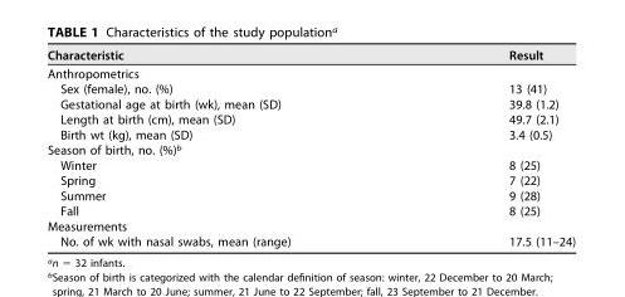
<table><thead><tr><td>Characteristic</td><td>Result</td></tr></thead><tbody><tr><td colspan="2">Anthropometrics</td></tr><tr><td>Sex (female), no. (%)</td><td>13 (41)</td></tr><tr><td>Gestational age at birth (wk), mean (SD)</td><td>39.8 (1.2)</td></tr><tr><td>Length at birth (cm), mean (SD)</td><td>49.7 (2.1)</td></tr><tr><td>Birth wt (kg), mean (SD)</td><td>3.4 (0.5)</td></tr><tr><td colspan="2">Season of birth, no. (%)<sup>b</sup></td></tr><tr><td>Winter</td><td>8 (25)</td></tr><tr><td>Spring</td><td>7 (22)</td></tr><tr><td>Summer</td><td>9 (28)</td></tr><tr><td>Fall</td><td>8 (25)</td></tr><tr><td colspan="2">Measurements</td></tr><tr><td>No. of wk with nasal swabs, mean (range)</td><td>17.5 (11–24)</td></tr></tbody></table>